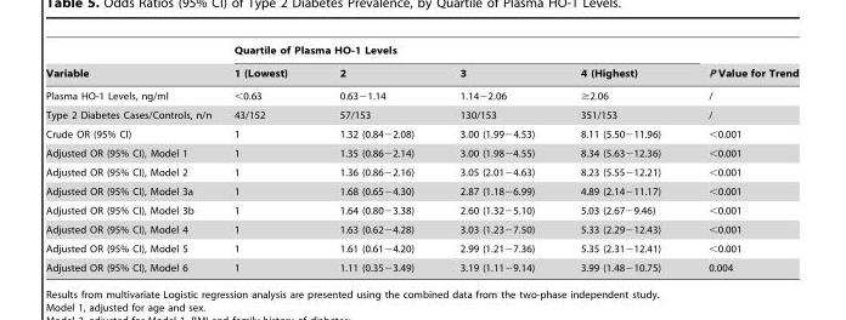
<table><thead><tr><td rowspan="2">Variable</td><td colspan="4">Quartile of Plasma HO-1 Levels</td><td rowspan="2">P Value for Trend</td></tr><tr><td>1 (Lowest)</td><td>2</td><td>3</td><td>4 (Highest)</td></tr></thead><tbody><tr><td>Plasma HO-1 Levels, ng/ml</td><td>&lt;0.63</td><td>0.63−1.14</td><td>1.14−2.06</td><td>≥2.06</td><td>/</td></tr><tr><td>Type 2 Diabetes Cases/Controls, n/n</td><td>43/152</td><td>57/153</td><td>130/153</td><td>351/153</td><td>/</td></tr><tr><td>Crude OR (95% CI)</td><td>1</td><td>1.32 (0.84−2.08)</td><td>3.00 (1.99−4.53)</td><td>8.11 (5.50−11.96)</td><td>&lt;0.001</td></tr><tr><td>Adjusted OR (95% CI), Model 1</td><td>1</td><td>1.35 (0.86−2.14)</td><td>3.00 (1.98−4.55)</td><td>8.34 (5.63−12.36)</td><td>&lt;0.001</td></tr><tr><td>Adjusted OR (95% CI), Model 2</td><td>1</td><td>1.36 (0.86−2.16)</td><td>3.05 (2.01−4.63)</td><td>8.23 (5.55−12.21)</td><td>&lt;0.001</td></tr><tr><td>Adjusted OR (95% CI), Model 3a</td><td>1</td><td>1.68 (0.65−4.30)</td><td>2.87 (1.18−6.99)</td><td>4.89 (2.14−11.17)</td><td>&lt;0.001</td></tr><tr><td>Adjusted OR (95% CI), Model 3b</td><td>1</td><td>1.64 (0.80−3.38)</td><td>2.60 (1.32−5.10)</td><td>5.03 (2.67−9.46)</td><td>&lt;0.001</td></tr><tr><td>Adjusted OR (95% CI), Model 4</td><td>1</td><td>1.63 (0.62−4.28)</td><td>3.03 (1.23−7.50)</td><td>5.33 (2.29−12.43)</td><td>&lt;0.001</td></tr><tr><td>Adjusted OR (95% CI), Model 5</td><td>1</td><td>1.61 (0.61−4.20)</td><td>2.99 (1.21−7.36)</td><td>5.35 (2.31−12.41)</td><td>&lt;0.001</td></tr><tr><td>Adjusted OR (95% CI), Model 6</td><td>1</td><td>1.11 (0.35−3.49)</td><td>3.19 (1.11−9.14)</td><td>3.99 (1.48−10.75)</td><td>0.004</td></tr></tbody></table>